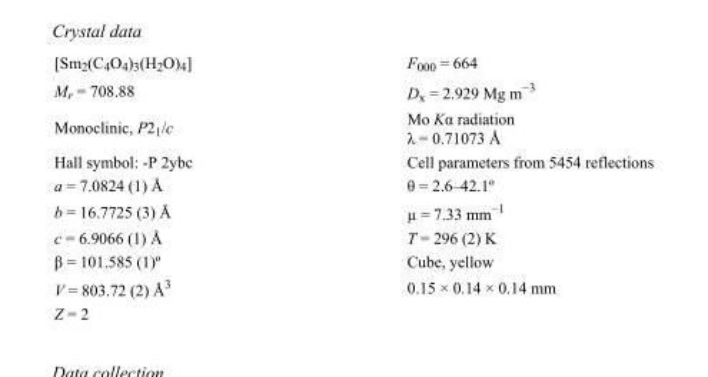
<table><tbody><tr><td>[Sm<sub>2</sub>(C<sub>4</sub>O<sub>4</sub>)<sub>3</sub>(H<sub>2</sub>O)<sub>4</sub>]</td><td>F<sub>000</sub> = 664</td></tr><tr><td>M<sub>r</sub> = 708.88</td><td>D<sub>x</sub> = 2.929 Mg m<sup>−3</sup></td></tr><tr><td>Monoclinic, P2<sub>1</sub>/c</td><td>Mo Kα radiation λ = 0.71073 Å</td></tr><tr><td>Hall symbol: -P 2ybc</td><td>Cell parameters from 5454 reflections</td></tr><tr><td>a = 7.0824 (1) Å</td><td>θ = 2.6–42.1º</td></tr><tr><td>b = 16.7725 (3) Å</td><td>µ = 7.33 mm<sup>−1</sup></td></tr><tr><td>c = 6.9066 (1) Å</td><td>T = 296 (2) K</td></tr><tr><td>β = 101.585 (1)º</td><td>Cube, yellow</td></tr><tr><td>V = 803.72 (2) Å<sup>3</sup></td><td>0.15 × 0.14 × 0.14 mm</td></tr><tr><td>Z = 2</td><td></td></tr></tbody></table>